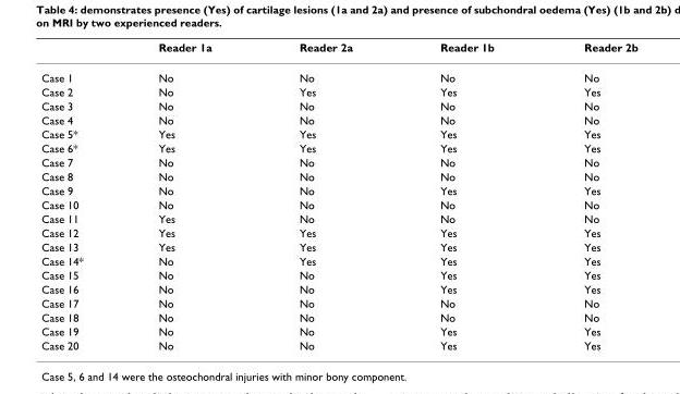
<table><thead><tr><td></td><td>Reader 1a</td><td>Reader 2a</td><td>Reader 1b</td><td>Reader 2b</td></tr></thead><tbody><tr><td>Case 1</td><td>No</td><td>No</td><td>No</td><td>No</td></tr><tr><td>Case 2</td><td>No</td><td>Yes</td><td>Yes</td><td>Yes</td></tr><tr><td>Case 3</td><td>No</td><td>No</td><td>No</td><td>No</td></tr><tr><td>Case 4</td><td>No</td><td>No</td><td>No</td><td>No</td></tr><tr><td>Case 5*</td><td>Yes</td><td>Yes</td><td>Yes</td><td>Yes</td></tr><tr><td>Case 6*</td><td>Yes</td><td>Yes</td><td>Yes</td><td>Yes</td></tr><tr><td>Case 7</td><td>No</td><td>No</td><td>No</td><td>No</td></tr><tr><td>Case 8</td><td>No</td><td>No</td><td>No</td><td>No</td></tr><tr><td>Case 9</td><td>No</td><td>No</td><td>Yes</td><td>Yes</td></tr><tr><td>Case 10</td><td>No</td><td>No</td><td>No</td><td>No</td></tr><tr><td>Case 11</td><td>Yes</td><td>No</td><td>No</td><td>No</td></tr><tr><td>Case 12</td><td>Yes</td><td>Yes</td><td>Yes</td><td>Yes</td></tr><tr><td>Case 13</td><td>Yes</td><td>Yes</td><td>Yes</td><td>Yes</td></tr><tr><td>Case 14*</td><td>No</td><td>Yes</td><td>Yes</td><td>Yes</td></tr><tr><td>Case 15</td><td>No</td><td>No</td><td>Yes</td><td>Yes</td></tr><tr><td>Case 16</td><td>No</td><td>No</td><td>Yes</td><td>Yes</td></tr><tr><td>Case 17</td><td>No</td><td>No</td><td>No</td><td>No</td></tr><tr><td>Case 18</td><td>No</td><td>No</td><td>No</td><td>No</td></tr><tr><td>Case 19</td><td>No</td><td>No</td><td>Yes</td><td>Yes</td></tr><tr><td>Case 20</td><td>No</td><td>No</td><td>Yes</td><td>Yes</td></tr></tbody></table>